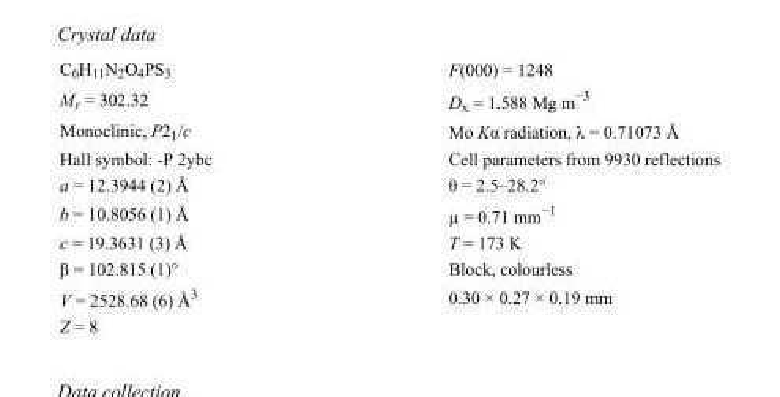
<table><tbody><tr><td>C<sub>6</sub>H<sub>11</sub>N<sub>2</sub>O<sub>4</sub>PS<sub>3</sub></td><td>F(000) = 1248</td></tr><tr><td>M<sub>r</sub> = 302.32</td><td>D<sub>x</sub> = 1.588 Mg m<sup>−3</sup></td></tr><tr><td>Monoclinic, P2<sub>1</sub>/c</td><td>Mo Kα radiation, λ = 0.71073 Å</td></tr><tr><td>Hall symbol: -P 2ybc</td><td>Cell parameters from 9930 reflections</td></tr><tr><td>a = 12.3944 (2) Å</td><td>θ = 2.5–28.2°</td></tr><tr><td>b = 10.8056 (1) Å</td><td>µ = 0.71 mm<sup>−1</sup></td></tr><tr><td>c = 19.3631 (3) Å</td><td>T = 173 K</td></tr><tr><td>β = 102.815 (1)°</td><td>Block, colourless</td></tr><tr><td>V = 2528.68 (6) Å<sup>3</sup></td><td>0.30 × 0.27 × 0.19 mm</td></tr><tr><td>Z = 8</td><td></td></tr></tbody></table>